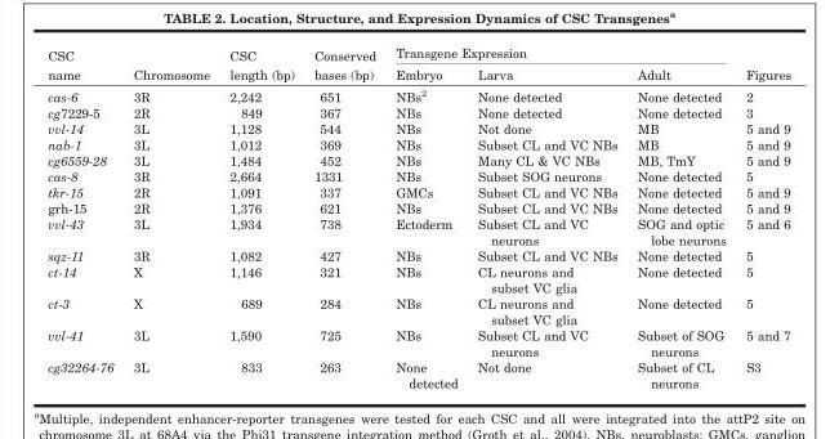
<table><thead><tr><td rowspan="2">CSC name</td><td rowspan="2">Chromosome</td><td rowspan="2">CSC length (bp)</td><td rowspan="2">Conserved bases (bp)</td><td colspan="3">Transgene Expression</td><td rowspan="2">Figures</td></tr><tr><td>Embryo</td><td>Larva</td><td>Adult</td></tr></thead><tbody><tr><td>cas-6</td><td>3R</td><td>2,242</td><td>651</td><td>NBs<sup>2</sup></td><td>None detected</td><td>None detected</td><td>2</td></tr><tr><td>cg7229-5</td><td>2R</td><td>849</td><td>367</td><td>NBs</td><td>None detected</td><td>None detected</td><td>3</td></tr><tr><td>vvl-14</td><td>3L</td><td>1,128</td><td>544</td><td>NBs</td><td>Not done</td><td>MB</td><td>5 and 9</td></tr><tr><td>nab-1</td><td>3L</td><td>1,012</td><td>369</td><td>NBs</td><td>Subset CL and VC NBs</td><td>MB</td><td>5 and 9</td></tr><tr><td>cg6559-28</td><td>3L</td><td>1,484</td><td>452</td><td>NBs</td><td>Many CL &amp; VC NBs</td><td>MB, TmY</td><td>5 and 9</td></tr><tr><td>cas-8</td><td>3R</td><td>2,664</td><td>1331</td><td>NBs</td><td>Subset SOG neurons</td><td>None detected</td><td>5</td></tr><tr><td>tkr-15</td><td>2R</td><td>1,091</td><td>337</td><td>GMCs</td><td>Subset CL and VC NBs</td><td>None detected</td><td>5 and 9</td></tr><tr><td>grh-15</td><td>2R</td><td>1,376</td><td>621</td><td>NBs</td><td>Subset CL and VC NBs</td><td>None detected</td><td>5 and 9</td></tr><tr><td>vvl-43</td><td>3L</td><td>1,934</td><td>738</td><td>Ectoderm</td><td>Subset CL and VC neurons</td><td>SOG and optic lobe neurons</td><td>5 and 6</td></tr><tr><td>sqz-11</td><td>3R</td><td>1,082</td><td>427</td><td>NBs</td><td>Subset CL and VC NBs</td><td>None detected</td><td>5</td></tr><tr><td>ct-14</td><td>X</td><td>1,146</td><td>321</td><td>NBs</td><td>CL neurons and subset VC glia</td><td>None detected</td><td>5</td></tr><tr><td>ct-3</td><td>X</td><td>689</td><td>284</td><td>NBs</td><td>CL neurons and subset VC glia</td><td>None detected</td><td>5</td></tr><tr><td>vvl-41</td><td>3L</td><td>1,590</td><td>725</td><td>NBs</td><td>Subset CL and VC neurons</td><td>Subset of SOG neurons</td><td>5 and 7</td></tr><tr><td>cg32264-76</td><td>3L</td><td>833</td><td>263</td><td>None detected</td><td>Not done</td><td>Subset of CL neurons</td><td>S3</td></tr></tbody></table>